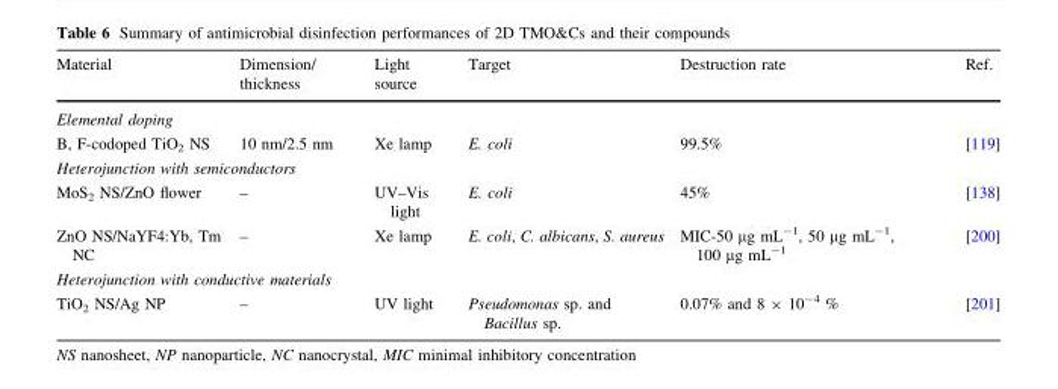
<table><thead><tr><td>Material</td><td>Dimension/ thickness</td><td>Light source</td><td>Target</td><td>Destruction rate</td><td>Ref.</td></tr></thead><tbody><tr><td colspan="6">Elemental doping</td></tr><tr><td>B, F-codoped TiO<sub>2</sub> NS</td><td>10 nm/2.5 nm</td><td>Xe lamp</td><td>E. coli</td><td>99.5%</td><td>[119]</td></tr><tr><td colspan="6">Heterojunction with semiconductors</td></tr><tr><td>MoS<sub>2</sub> NS/ZnO flower</td><td>–</td><td>UV–Vis light</td><td>E. coli</td><td>45%</td><td>[138]</td></tr><tr><td>ZnO NS/NaYF4:Yb, Tm NC</td><td>–</td><td>Xe lamp</td><td>E. coli, C. albicans, S. aureus</td><td>MIC-50 µg mL<sup>-1</sup>, 50 µg mL<sup>-1</sup>, 100 µg mL<sup>-1</sup></td><td>[200]</td></tr><tr><td colspan="6">Heterojunction with conductive materials</td></tr><tr><td>TiO<sub>2</sub> NS/Ag NP</td><td>–</td><td>UV light</td><td>Pseudomonas sp. and Bacillus sp.</td><td>0.07% and 8 × 10<sup>-4</sup> %</td><td>[201]</td></tr></tbody></table>